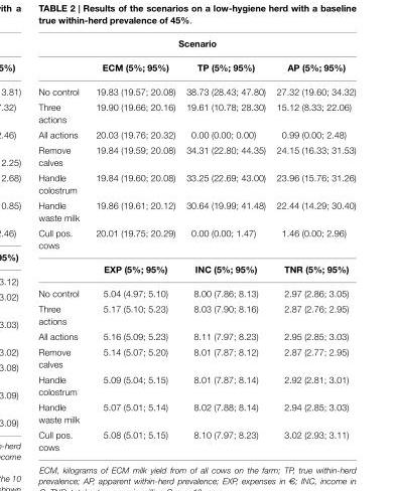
<table><thead><tr><td colspan="4">Scenario</td></tr><tr><td></td><td>ECM (5%; 95%)</td><td>TP (5%; 95%)</td><td>AP (5%; 95%)</td></tr></thead><tbody><tr><td>No control</td><td>19.83 (19.57; 20.08)</td><td>38.73 (28.43; 47.80)</td><td>27.32 (19.60; 34.32)</td></tr><tr><td>Three actions</td><td>19.90 (19.66; 20.16)</td><td>19.61 (10.78; 28.30)</td><td>15.12 (8.33; 22.06)</td></tr><tr><td>All actions</td><td>20.03 (19.76; 20.32)</td><td>0.00 (0.00; 0.00)</td><td>0.99 (0.00; 2.48)</td></tr><tr><td>Remove calves</td><td>19.84 (19.59; 20.08)</td><td>34.31 (22.80; 44.35)</td><td>24.15 (16.33; 31.53)</td></tr><tr><td>Handle colostrum</td><td>19.84 (19.60; 20.08)</td><td>33.25 (22.69; 43.00)</td><td>23.96 (15.76; 31.26)</td></tr><tr><td>Handle waste milk</td><td>19.86 (19.61; 20.12)</td><td>30.64 (19.99; 41.48)</td><td>22.44 (14.29; 30.40)</td></tr><tr><td rowspan="2">Cull pos. cows</td><td>20.01 (19.75; 20.29)</td><td>0.00 (0.00; 1.47)</td><td>1.46 (0.00; 2.96)</td></tr><tr><td>EXP (5%; 95%)</td><td>INC (5%; 95%)</td><td>TNR (5%; 95%)</td></tr><tr><td>No control</td><td>5.04 (4.97; 5.10)</td><td>8.00 (7.86; 8.13)</td><td>2.97 (2.86; 3.05)</td></tr><tr><td>Three actions</td><td>5.17 (5.10; 5.23)</td><td>8.03 (7.90; 8.16)</td><td>2.87 (2.76; 2.95)</td></tr><tr><td>All actions</td><td>5.16 (5.09; 5.23)</td><td>8.11 (7.97; 8.23)</td><td>2.95 (2.85; 3.03)</td></tr><tr><td>Remove calves</td><td>5.14 (5.07; 5.20)</td><td>8.01 (7.87; 8.12)</td><td>2.87 (2.77; 2.95)</td></tr><tr><td>Handle colostrum</td><td>5.09 (5.04; 5.15)</td><td>8.01 (7.87; 8.14)</td><td>2.92 (2.81; 3.01)</td></tr><tr><td>Handle waste milk</td><td>5.07 (5.01; 5.14)</td><td>8.02 (7.88; 8.14)</td><td>2.94 (2.85; 3.03)</td></tr><tr><td>Cull pos. cows</td><td>5.08 (5.01; 5.15)</td><td>8.10 (7.97; 8.23)</td><td>3.02 (2.93; 3.11)</td></tr></tbody></table>